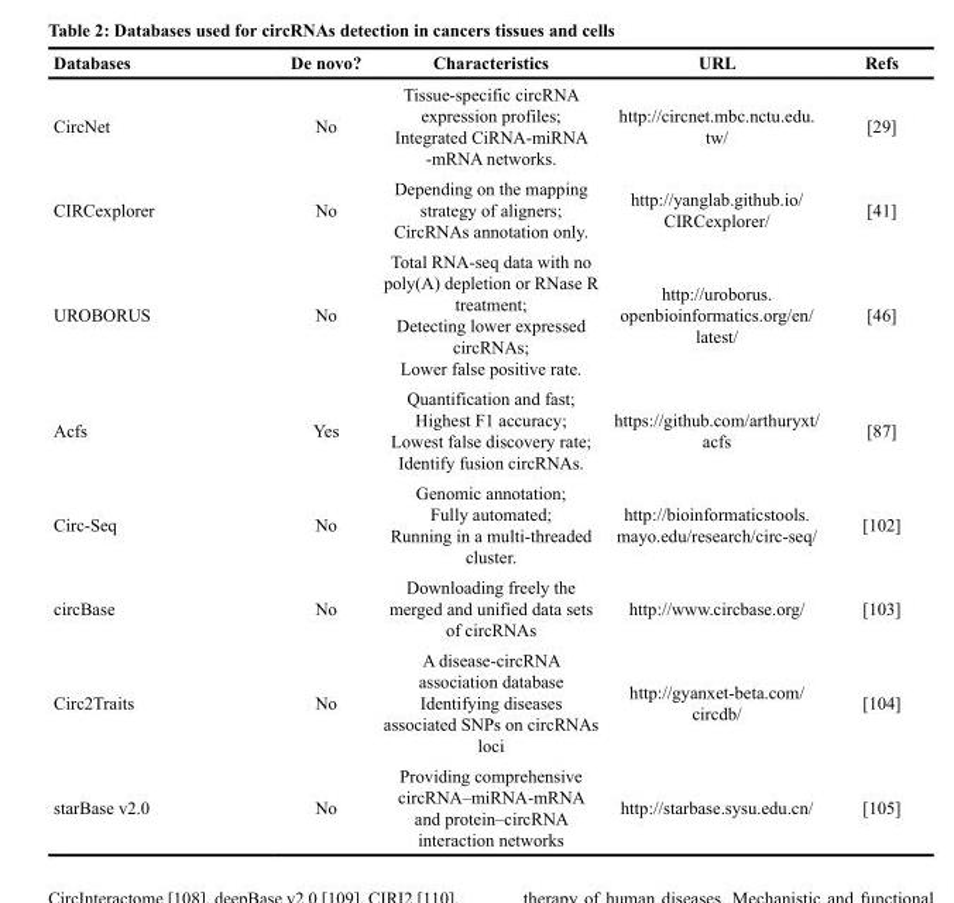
<table><thead><tr><td>Databases</td><td>De novo?</td><td>Characteristics</td><td>URL</td><td>Refs</td></tr></thead><tbody><tr><td>CircNet</td><td>No</td><td>Tissue-specific circRNA expression profiles; Integrated CiRNA-miRNA -mRNA networks.</td><td>http://circnet.mbc.nctu.edu. tw/</td><td>[29]</td></tr><tr><td>CIRCexplorer</td><td>No</td><td>Depending on the mapping strategy of aligners; CircRNAs annotation only.</td><td>http://yanglab.github.io/ CIRCexplorer/</td><td>[41]</td></tr><tr><td>UROBORUS</td><td>No</td><td>Total RNA-seq data with no poly(A) depletion or RNase R treatment; Detecting lower expressed circRNAs; Lower false positive rate.</td><td>http://uroborus. openbioinformatics.org/en/ latest/</td><td>[46]</td></tr><tr><td>Acfs</td><td>Yes</td><td>Quantification and fast; Highest F1 accuracy; Lowest false discovery rate; Identify fusion circRNAs.</td><td>https://github.com/arthuryxt/ acfs</td><td>[87]</td></tr><tr><td>Circ-Seq</td><td>No</td><td>Genomic annotation; Fully automated; Running in a multi-threaded cluster.</td><td>http://bioinformaticstools. mayo.edu/research/circ-seq/</td><td>[102]</td></tr><tr><td>circBase</td><td>No</td><td>Downloading freely the merged and unified data sets of circRNAs</td><td>http://www.circbase.org/</td><td>[103]</td></tr><tr><td>Circ2Traits</td><td>No</td><td>A disease-circRNA association database Identifying diseases associated SNPs on circRNAs loci</td><td>http://gyanxet-beta.com/ circdb/</td><td>[104]</td></tr><tr><td>starBase v2.0</td><td>No</td><td>Providing comprehensive circRNA–miRNA-mRNA and protein–circRNA interaction networks</td><td>http://starbase.sysu.edu.cn/</td><td>[105]</td></tr></tbody></table>